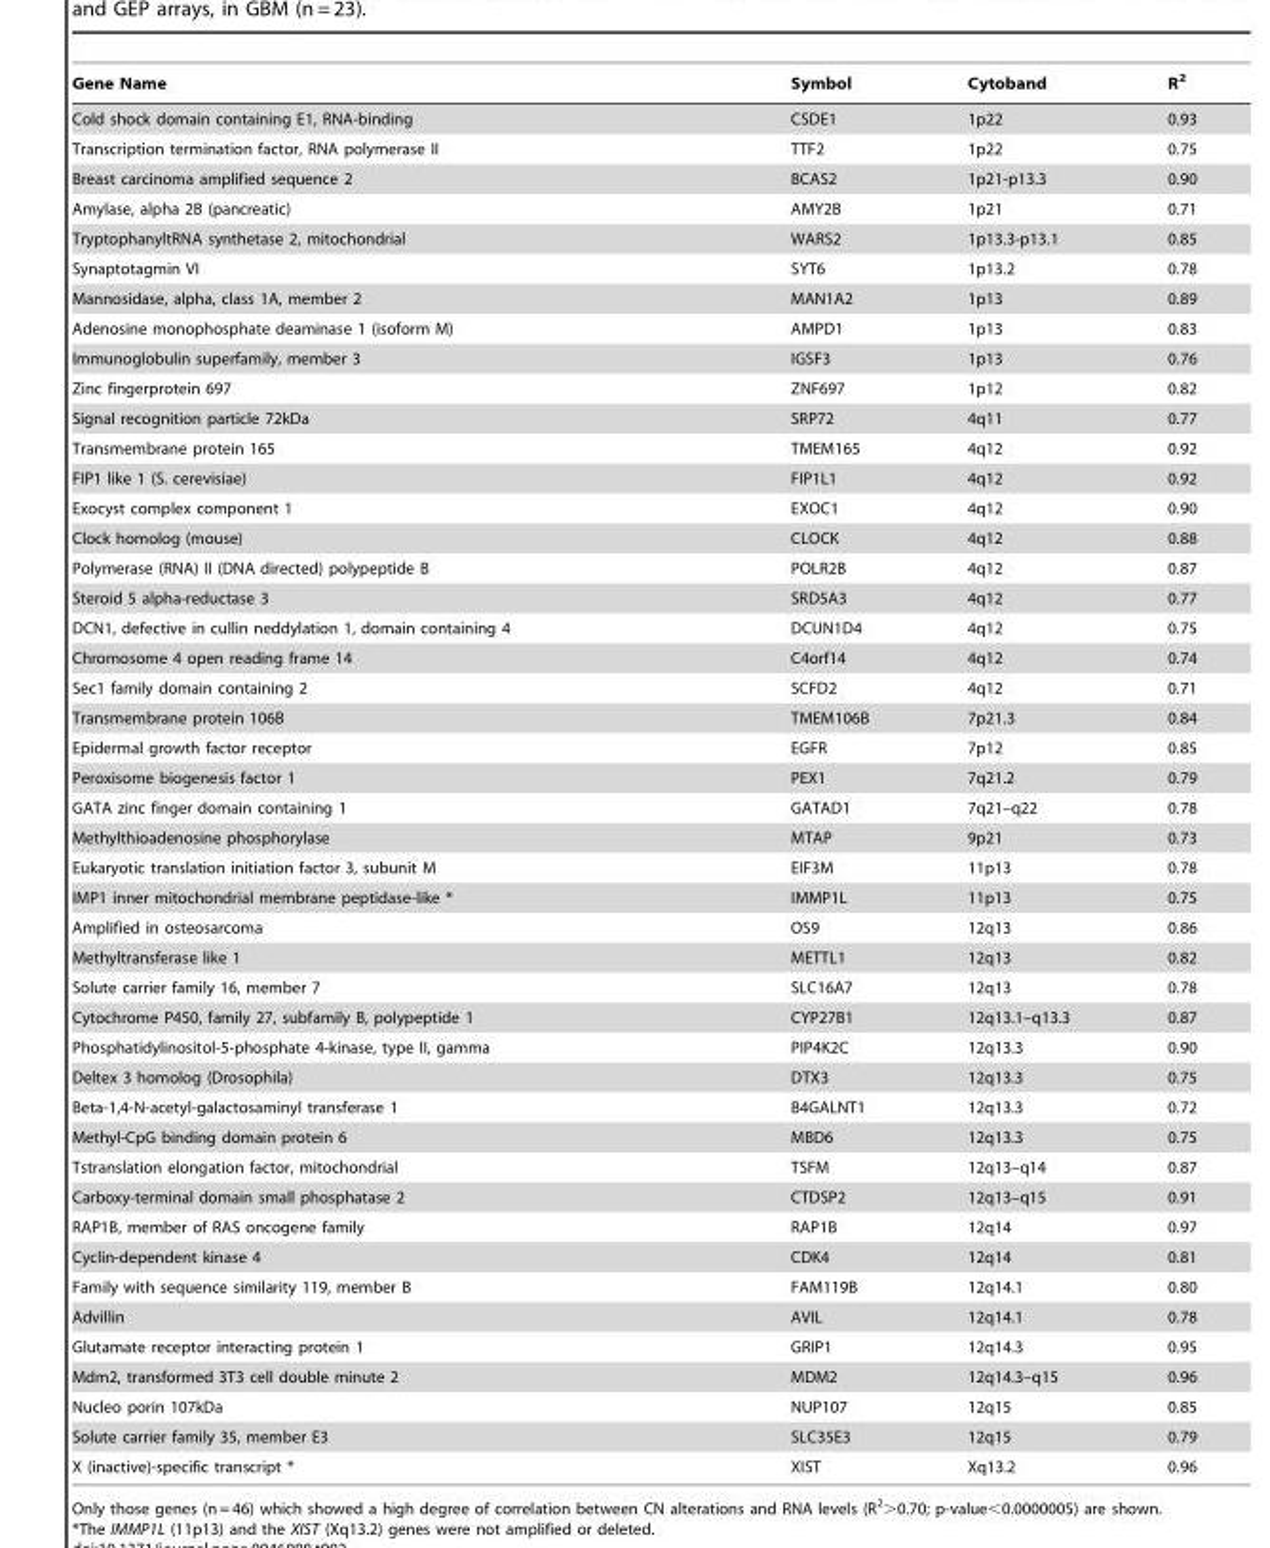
<table><thead><tr><td>Gene Name</td><td>Symbol</td><td>Cytoband</td><td>R<sup>2</sup></td></tr></thead><tbody><tr><td>Cold shock domain containing E1, RNA-binding</td><td>CSDE1</td><td>1p22</td><td>0.93</td></tr><tr><td>Transcription termination factor, RNA polymerase II</td><td>TTF2</td><td>1p22</td><td>0.75</td></tr><tr><td>Breast carcinoma amplified sequence 2</td><td>BCAS2</td><td>1p21-p13.3</td><td>0.90</td></tr><tr><td>Amylase, alpha 2B (pancreatic)</td><td>AMY2B</td><td>1p21</td><td>0.71</td></tr><tr><td>TryptophanyltRNA synthetase 2, mitochondrial</td><td>WARS2</td><td>1p13.3-p13.1</td><td>0.85</td></tr><tr><td>Synaptotagmin VI</td><td>SYT6</td><td>1p13.2</td><td>0.78</td></tr><tr><td>Mannosidase, alpha, class 1A, member 2</td><td>MAN1A2</td><td>1p13</td><td>0.89</td></tr><tr><td>Adenosine monophosphate deaminase 1 (isoform M)</td><td>AMPD1</td><td>1p13</td><td>0.83</td></tr><tr><td>Immunoglobulin superfamily, member 3</td><td>IGSF3</td><td>1p13</td><td>0.76</td></tr><tr><td>Zinc fingerprotein 697</td><td>ZNF697</td><td>1p12</td><td>0.82</td></tr><tr><td>Signal recognition particle 72kDa</td><td>SRP72</td><td>4q11</td><td>0.77</td></tr><tr><td>Transmembrane protein 165</td><td>TMEM165</td><td>4q12</td><td>0.92</td></tr><tr><td>FIP1 like 1 (S. cerevisiae)</td><td>FIP1L1</td><td>4q12</td><td>0.92</td></tr><tr><td>Exocyst complex component 1</td><td>EXOC1</td><td>4q12</td><td>0.90</td></tr><tr><td>Clock homolog (mouse)</td><td>CLOCK</td><td>4q12</td><td>0.88</td></tr><tr><td>Polymerase (RNA) II (DNA directed) polypeptide B</td><td>POLR2B</td><td>4q12</td><td>0.87</td></tr><tr><td>Steroid 5 alpha-reductase 3</td><td>SRD5A3</td><td>4q12</td><td>0.77</td></tr><tr><td>DCN1, defective in cullin neddylation 1, domain containing 4</td><td>DCUN1D4</td><td>4q12</td><td>0.75</td></tr><tr><td>Chromosome 4 open reading frame 14</td><td>C4orf14</td><td>4q12</td><td>0.74</td></tr><tr><td>Sec1 family domain containing 2</td><td>SCFD2</td><td>4q12</td><td>0.71</td></tr><tr><td>Transmembrane protein 106B</td><td>TMEM106B</td><td>7p21.3</td><td>0.84</td></tr><tr><td>Epidermal growth factor receptor</td><td>EGFR</td><td>7p12</td><td>0.85</td></tr><tr><td>Peroxisome biogenesis factor 1</td><td>PEX1</td><td>7q21.2</td><td>0.79</td></tr><tr><td>GATA zinc finger domain containing 1</td><td>GATAD1</td><td>7q21–q22</td><td>0.78</td></tr><tr><td>Methylthioadenosine phosphorylase</td><td>MTAP</td><td>9p21</td><td>0.73</td></tr><tr><td>Eukaryotic translation initiation factor 3, subunit M</td><td>EIF3M</td><td>11p13</td><td>0.78</td></tr><tr><td>IMP1 inner mitochondrial membrane peptidase-like *</td><td>IMMP1L</td><td>11p13</td><td>0.75</td></tr><tr><td>Amplified in osteosarcoma</td><td>OS9</td><td>12q13</td><td>0.86</td></tr><tr><td>Methyltransferase like 1</td><td>METTL1</td><td>12q13</td><td>0.82</td></tr><tr><td>Solute carrier family 16, member 7</td><td>SLC16A7</td><td>12q13</td><td>0.78</td></tr><tr><td>Cytochrome P450, family 27, subfamily B, polypeptide 1</td><td>CYP27B1</td><td>12q13.1–q13.3</td><td>0.87</td></tr><tr><td>Phosphatidylinositol-5-phosphate 4-kinase, type II, gamma</td><td>PIP4K2C</td><td>12q13.3</td><td>0.90</td></tr><tr><td>Deltex 3 homolog (Drosophila)</td><td>DTX3</td><td>12q13.3</td><td>0.75</td></tr><tr><td>Beta-1,4-N-acetyl-galactosaminyl transferase 1</td><td>B4GALNT1</td><td>12q13.3</td><td>0.72</td></tr><tr><td>Methyl-CpG binding domain protein 6</td><td>MBD6</td><td>12q13.3</td><td>0.75</td></tr><tr><td>Tstranslation elongation factor, mitochondrial</td><td>TSFM</td><td>12q13–q14</td><td>0.87</td></tr><tr><td>Carboxy-terminal domain small phosphatase 2</td><td>CTDSP2</td><td>12q13–q15</td><td>0.91</td></tr><tr><td>RAP1B, member of RAS oncogene family</td><td>RAP1B</td><td>12q14</td><td>0.97</td></tr><tr><td>Cyclin-dependent kinase 4</td><td>CDK4</td><td>12q14</td><td>0.81</td></tr><tr><td>Family with sequence similarity 119, member B</td><td>FAM119B</td><td>12q14.1</td><td>0.80</td></tr><tr><td>Advillin</td><td>AVIL</td><td>12q14.1</td><td>0.78</td></tr><tr><td>Glutamate receptor interacting protein 1</td><td>GRIP1</td><td>12q14.3</td><td>0.95</td></tr><tr><td>Mdm2, transformed 3T3 cell double minute 2</td><td>MDM2</td><td>12q14.3–q15</td><td>0.96</td></tr><tr><td>Nucleo porin 107kDa</td><td>NUP107</td><td>12q15</td><td>0.85</td></tr><tr><td>Solute carrier family 35, member E3</td><td>SLC35E3</td><td>12q15</td><td>0.79</td></tr><tr><td>X (inactive)-specific transcript *</td><td>XIST</td><td>Xq13.2</td><td>0.96</td></tr></tbody></table>